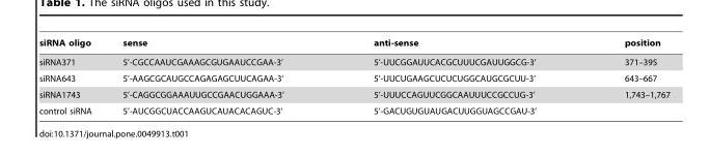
<table><thead><tr><td>siRNA oligo</td><td>sense</td><td>anti-sense</td><td>position</td></tr></thead><tbody><tr><td>siRNA371</td><td>5’-CGCCAAUCGAAAGCGUGAAUCCGAA-3’</td><td>5’-UUCGGAUUCACGCUUUCGAUUGGCG-3’</td><td>371–395</td></tr><tr><td>siRNA643</td><td>5’-AAGCGCAUGCCAGAGAGCUUCAGAA-3’</td><td>5’-UUCUGAAGCUCUCUGGCAUGCGCUU-3’</td><td>643–667</td></tr><tr><td>siRNA1743</td><td>5’-CAGGCGGAAAUUGCCGAACUGGAAA-3’</td><td>5’-UUUCCAGUUCGGCAAUUUCCGCCUG-3’</td><td>1,743–1,767</td></tr><tr><td>control siRNA</td><td>5’-AUCGGCUACCAAGUCAUACACAGUC-3’</td><td>5’-GACUGUGUAUGACUUGGUAGCCGAU-3’</td><td></td></tr></tbody></table>